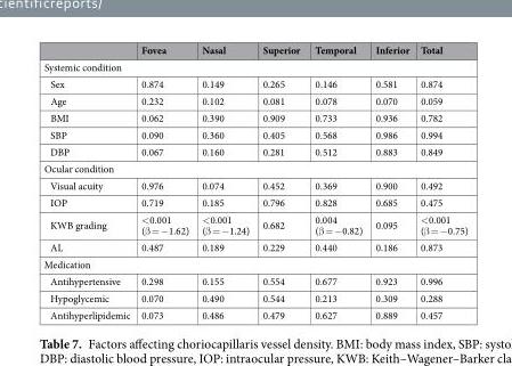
<table><thead><tr><td></td><td>Fovea</td><td>Nasal</td><td>Superior</td><td>Temporal</td><td>Inferior</td><td>Total</td></tr></thead><tbody><tr><td colspan="7">Systemic condition</td></tr><tr><td>Sex</td><td>0.874</td><td>0.149</td><td>0.265</td><td>0.146</td><td>0.581</td><td>0.874</td></tr><tr><td>Age</td><td>0.232</td><td>0.102</td><td>0.081</td><td>0.078</td><td>0.070</td><td>0.059</td></tr><tr><td>BMI</td><td>0.062</td><td>0.390</td><td>0.909</td><td>0.733</td><td>0.936</td><td>0.782</td></tr><tr><td>SBP</td><td>0.090</td><td>0.360</td><td>0.405</td><td>0.568</td><td>0.986</td><td>0.994</td></tr><tr><td>DBP</td><td>0.067</td><td>0.160</td><td>0.281</td><td>0.512</td><td>0.883</td><td>0.849</td></tr><tr><td colspan="7">Ocular condition</td></tr><tr><td>Visual acuity</td><td>0.976</td><td>0.074</td><td>0.452</td><td>0.369</td><td>0.900</td><td>0.492</td></tr><tr><td>IOP</td><td>0.719</td><td>0.185</td><td>0.796</td><td>0.828</td><td>0.685</td><td>0.475</td></tr><tr><td>KWB grading</td><td>&lt;0.001 (β = −1.62)</td><td>&lt;0.001 (β = −1.24)</td><td>0.682</td><td>0.004 (β = −0.82)</td><td>0.095</td><td>&lt;0.001 (β = −0.75)</td></tr><tr><td>AL</td><td>0.487</td><td>0.189</td><td>0.229</td><td>0.440</td><td>0.186</td><td>0.873</td></tr><tr><td colspan="7">Medication</td></tr><tr><td>Antihypertensive</td><td>0.298</td><td>0.155</td><td>0.554</td><td>0.677</td><td>0.923</td><td>0.996</td></tr><tr><td>Hypoglycemic</td><td>0.070</td><td>0.490</td><td>0.544</td><td>0.213</td><td>0.309</td><td>0.288</td></tr><tr><td>Antihyperlipidemic</td><td>0.073</td><td>0.486</td><td>0.479</td><td>0.627</td><td>0.889</td><td>0.457</td></tr></tbody></table>